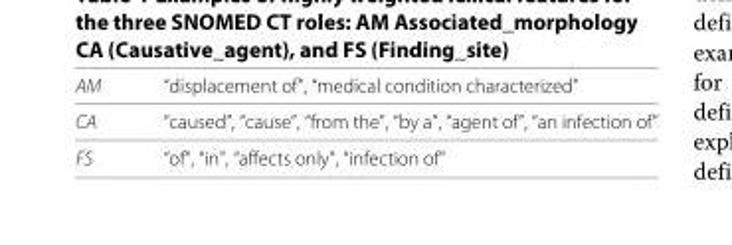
<table><thead><tr><td>AM</td><td>“displacement of”, “medical condition characterized”</td></tr></thead><tbody><tr><td>CA</td><td>“caused”, “cause”, “from the”, “by a”, “agent of”, “an infection of”</td></tr><tr><td>FS</td><td>“of”, “in”, “affects only”, “infection of”</td></tr></tbody></table>